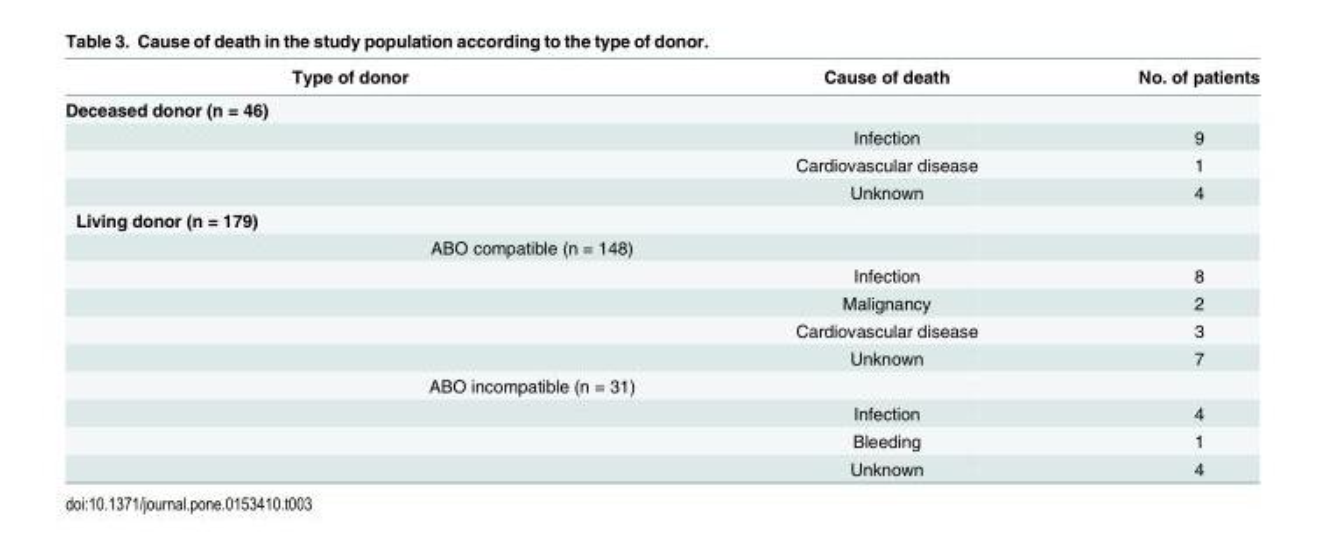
<table><thead><tr><td colspan="2">Type of donor</td><td rowspan="2">Cause of death</td><td rowspan="2">No. of patients</td></tr><tr><td>Deceased donor (n = 46)</td><td></td></tr></thead><tbody><tr><td></td><td></td><td>Infection</td><td>9</td></tr><tr><td></td><td></td><td>Cardiovascular disease</td><td>1</td></tr><tr><td></td><td></td><td>Unknown</td><td>4</td></tr><tr><td colspan="4">Living donor (n = 179)</td></tr><tr><td></td><td>ABO compatible (n = 148)</td><td></td><td></td></tr><tr><td></td><td></td><td>Infection</td><td>8</td></tr><tr><td></td><td></td><td>Malignancy</td><td>2</td></tr><tr><td></td><td></td><td>Cardiovascular disease</td><td>3</td></tr><tr><td></td><td></td><td>Unknown</td><td>7</td></tr><tr><td></td><td>ABO incompatible (n = 31)</td><td></td><td></td></tr><tr><td></td><td></td><td>Infection</td><td>4</td></tr><tr><td></td><td></td><td>Bleeding</td><td>1</td></tr><tr><td></td><td></td><td>Unknown</td><td>4</td></tr></tbody></table>